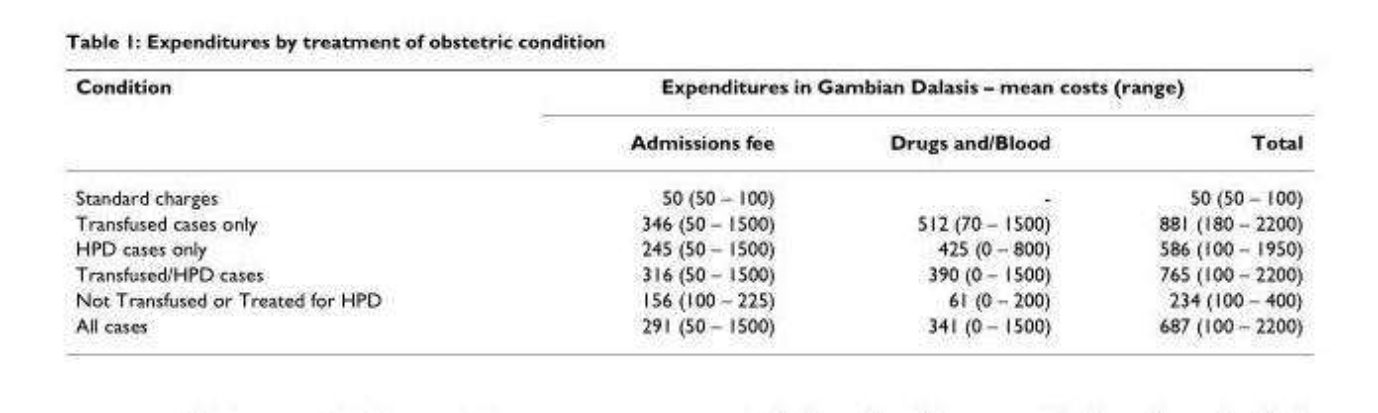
<table><thead><tr><td rowspan="2">Condition</td><td colspan="3">Expenditures in Gambian Dalasis – mean costs (range)</td></tr><tr><td>Admissions fee</td><td>Drugs and/Blood</td><td>Total</td></tr></thead><tbody><tr><td>Standard charges</td><td>50 (50 – 100)</td><td>-</td><td>50 (50 – 100)</td></tr><tr><td>Transfused cases only</td><td>346 (50 – 1500)</td><td>512 (70 – 1500)</td><td>881 (180 – 2200)</td></tr><tr><td>HPD cases only</td><td>245 (50 – 1500)</td><td>425 (0 – 800)</td><td>586 (100 – 1950)</td></tr><tr><td>Transfused/HPD cases</td><td>316 (50 – 1500)</td><td>390 (0 – 1500)</td><td>765 (100 – 2200)</td></tr><tr><td>Not Transfused or Treated for HPD</td><td>156 (100 – 225)</td><td>61 (0 – 200)</td><td>234 (100 – 400)</td></tr><tr><td>All cases</td><td>291 (50 – 1500)</td><td>341 (0 – 1500)</td><td>687 (100 – 2200)</td></tr></tbody></table>